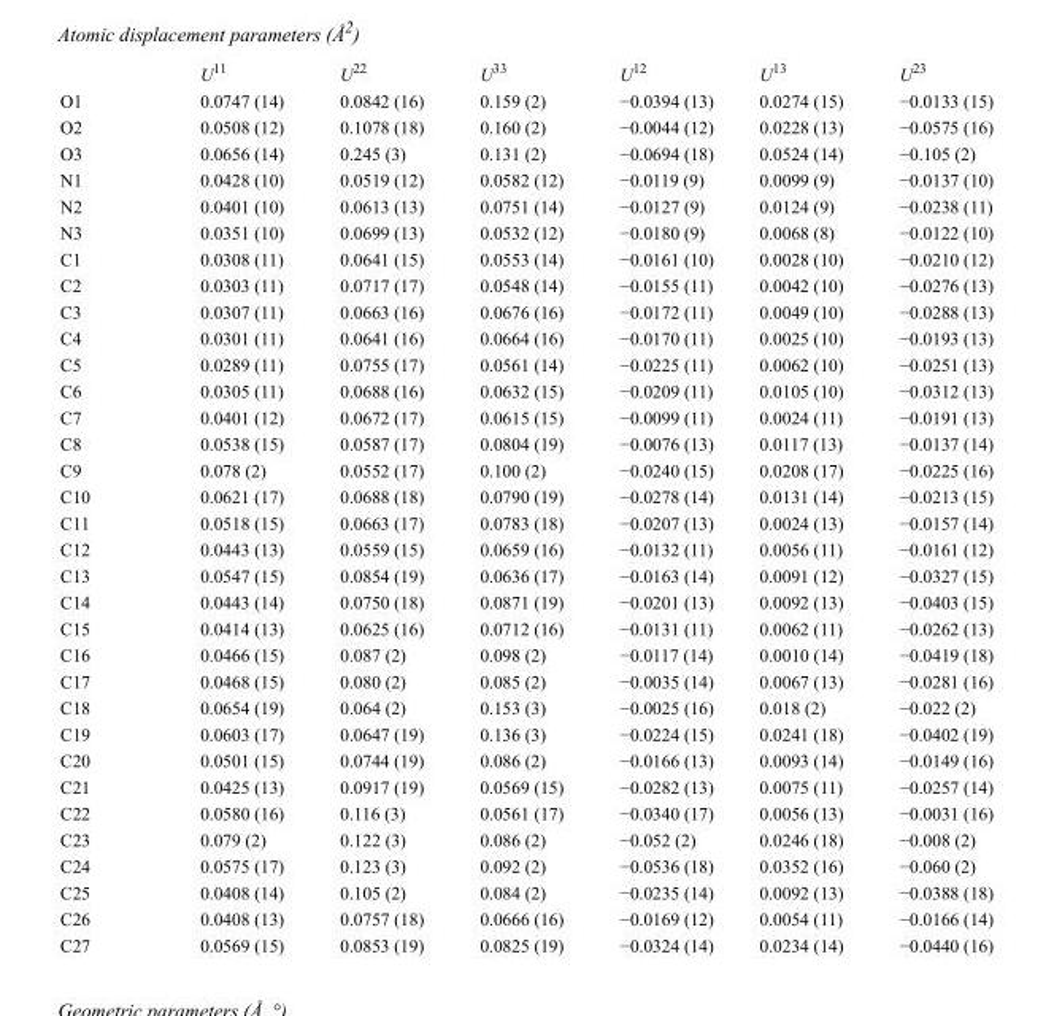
<table><thead><tr><td></td><td>U<sup>11</sup></td><td>U<sup>22</sup></td><td>U<sup>33</sup></td><td>U<sup>12</sup></td><td>U<sup>13</sup></td><td>U<sup>23</sup></td></tr></thead><tbody><tr><td>O1</td><td>0.0747 (14)</td><td>0.0842 (16)</td><td>0.159 (2)</td><td>−0.0394 (13)</td><td>0.0274 (15)</td><td>−0.0133 (15)</td></tr><tr><td>O2</td><td>0.0508 (12)</td><td>0.1078 (18)</td><td>0.160 (2)</td><td>−0.0044 (12)</td><td>0.0228 (13)</td><td>−0.0575 (16)</td></tr><tr><td>O3</td><td>0.0656 (14)</td><td>0.245 (3)</td><td>0.131 (2)</td><td>−0.0694 (18)</td><td>0.0524 (14)</td><td>−0.105 (2)</td></tr><tr><td>N1</td><td>0.0428 (10)</td><td>0.0519 (12)</td><td>0.0582 (12)</td><td>−0.0119 (9)</td><td>0.0099 (9)</td><td>−0.0137 (10)</td></tr><tr><td>N2</td><td>0.0401 (10)</td><td>0.0613 (13)</td><td>0.0751 (14)</td><td>−0.0127 (9)</td><td>0.0124 (9)</td><td>−0.0238 (11)</td></tr><tr><td>N3</td><td>0.0351 (10)</td><td>0.0699 (13)</td><td>0.0532 (12)</td><td>−0.0180 (9)</td><td>0.0068 (8)</td><td>−0.0122 (10)</td></tr><tr><td>C1</td><td>0.0308 (11)</td><td>0.0641 (15)</td><td>0.0553 (14)</td><td>−0.0161 (10)</td><td>0.0028 (10)</td><td>−0.0210 (12)</td></tr><tr><td>C2</td><td>0.0303 (11)</td><td>0.0717 (17)</td><td>0.0548 (14)</td><td>−0.0155 (11)</td><td>0.0042 (10)</td><td>−0.0276 (13)</td></tr><tr><td>C3</td><td>0.0307 (11)</td><td>0.0663 (16)</td><td>0.0676 (16)</td><td>−0.0172 (11)</td><td>0.0049 (10)</td><td>−0.0288 (13)</td></tr><tr><td>C4</td><td>0.0301 (11)</td><td>0.0641 (16)</td><td>0.0664 (16)</td><td>−0.0170 (11)</td><td>0.0025 (10)</td><td>−0.0193 (13)</td></tr><tr><td>C5</td><td>0.0289 (11)</td><td>0.0755 (17)</td><td>0.0561 (14)</td><td>−0.0225 (11)</td><td>0.0062 (10)</td><td>−0.0251 (13)</td></tr><tr><td>C6</td><td>0.0305 (11)</td><td>0.0688 (16)</td><td>0.0632 (15)</td><td>−0.0209 (11)</td><td>0.0105 (10)</td><td>−0.0312 (13)</td></tr><tr><td>C7</td><td>0.0401 (12)</td><td>0.0672 (17)</td><td>0.0615 (15)</td><td>−0.0099 (11)</td><td>0.0024 (11)</td><td>−0.0191 (13)</td></tr><tr><td>C8</td><td>0.0538 (15)</td><td>0.0587 (17)</td><td>0.0804 (19)</td><td>−0.0076 (13)</td><td>0.0117 (13)</td><td>−0.0137 (14)</td></tr><tr><td>C9</td><td>0.078 (2)</td><td>0.0552 (17)</td><td>0.100 (2)</td><td>−0.0240 (15)</td><td>0.0208 (17)</td><td>−0.0225 (16)</td></tr><tr><td>C10</td><td>0.0621 (17)</td><td>0.0688 (18)</td><td>0.0790 (19)</td><td>−0.0278 (14)</td><td>0.0131 (14)</td><td>−0.0213 (15)</td></tr><tr><td>C11</td><td>0.0518 (15)</td><td>0.0663 (17)</td><td>0.0783 (18)</td><td>−0.0207 (13)</td><td>0.0024 (13)</td><td>−0.0157 (14)</td></tr><tr><td>C12</td><td>0.0443 (13)</td><td>0.0559 (15)</td><td>0.0659 (16)</td><td>−0.0132 (11)</td><td>0.0056 (11)</td><td>−0.0161 (12)</td></tr><tr><td>C13</td><td>0.0547 (15)</td><td>0.0854 (19)</td><td>0.0636 (17)</td><td>−0.0163 (14)</td><td>0.0091 (12)</td><td>−0.0327 (15)</td></tr><tr><td>C14</td><td>0.0443 (14)</td><td>0.0750 (18)</td><td>0.0871 (19)</td><td>−0.0201 (13)</td><td>0.0092 (13)</td><td>−0.0403 (15)</td></tr><tr><td>C15</td><td>0.0414 (13)</td><td>0.0625 (16)</td><td>0.0712 (16)</td><td>−0.0131 (11)</td><td>0.0062 (11)</td><td>−0.0262 (13)</td></tr><tr><td>C16</td><td>0.0466 (15)</td><td>0.087 (2)</td><td>0.098 (2)</td><td>−0.0117 (14)</td><td>0.0010 (14)</td><td>−0.0419 (18)</td></tr><tr><td>C17</td><td>0.0468 (15)</td><td>0.080 (2)</td><td>0.085 (2)</td><td>−0.0035 (14)</td><td>0.0067 (13)</td><td>−0.0281 (16)</td></tr><tr><td>C18</td><td>0.0654 (19)</td><td>0.064 (2)</td><td>0.153 (3)</td><td>−0.0025 (16)</td><td>0.018 (2)</td><td>−0.022 (2)</td></tr><tr><td>C19</td><td>0.0603 (17)</td><td>0.0647 (19)</td><td>0.136 (3)</td><td>−0.0224 (15)</td><td>0.0241 (18)</td><td>−0.0402 (19)</td></tr><tr><td>C20</td><td>0.0501 (15)</td><td>0.0744 (19)</td><td>0.086 (2)</td><td>−0.0166 (13)</td><td>0.0093 (14)</td><td>−0.0149 (16)</td></tr><tr><td>C21</td><td>0.0425 (13)</td><td>0.0917 (19)</td><td>0.0569 (15)</td><td>−0.0282 (13)</td><td>0.0075 (11)</td><td>−0.0257 (14)</td></tr><tr><td>C22</td><td>0.0580 (16)</td><td>0.116 (3)</td><td>0.0561 (17)</td><td>−0.0340 (17)</td><td>0.0056 (13)</td><td>−0.0031 (16)</td></tr><tr><td>C23</td><td>0.079 (2)</td><td>0.122 (3)</td><td>0.086 (2)</td><td>−0.052 (2)</td><td>0.0246 (18)</td><td>−0.008 (2)</td></tr><tr><td>C24</td><td>0.0575 (17)</td><td>0.123 (3)</td><td>0.092 (2)</td><td>−0.0536 (18)</td><td>0.0352 (16)</td><td>−0.060 (2)</td></tr><tr><td>C25</td><td>0.0408 (14)</td><td>0.105 (2)</td><td>0.084 (2)</td><td>−0.0235 (14)</td><td>0.0092 (13)</td><td>−0.0388 (18)</td></tr><tr><td>C26</td><td>0.0408 (13)</td><td>0.0757 (18)</td><td>0.0666 (16)</td><td>−0.0169 (12)</td><td>0.0054 (11)</td><td>−0.0166 (14)</td></tr><tr><td>C27</td><td>0.0569 (15)</td><td>0.0853 (19)</td><td>0.0825 (19)</td><td>−0.0324 (14)</td><td>0.0234 (14)</td><td>−0.0440 (16)</td></tr></tbody></table>